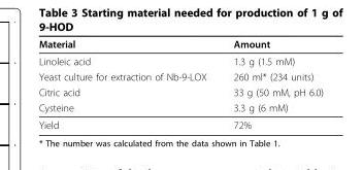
<table><thead><tr><td>Material</td><td>Amount</td></tr></thead><tbody><tr><td>Linoleic acid</td><td>1.3 g (1.5 mM)</td></tr><tr><td>Yeast culture for extraction of Nb-9-LOX</td><td>260 ml* (234 units)</td></tr><tr><td>Citric acid</td><td>33 g (50 mM, pH 6.0)</td></tr><tr><td>Cysteine</td><td>3.3 g (6 mM)</td></tr><tr><td>Yield</td><td>72%</td></tr></tbody></table>